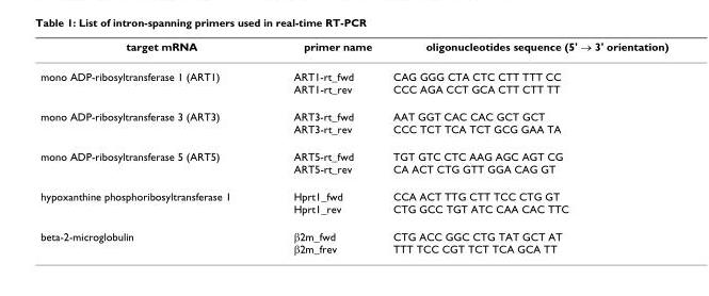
<table><thead><tr><td>target mRNA</td><td>primer name</td><td>oligonucleotides sequence (5&#x27; → 3&#x27; orientation)</td></tr></thead><tbody><tr><td>mono ADP-ribosyltransferase 1 (ART1)</td><td>ART1-rt_fwd ART1-rt_rev</td><td>CAG GGG CTA CTC CTT TTT CC CCC AGA CCT GCA CTT CTT TT</td></tr><tr><td>mono ADP-ribosyltransferase 3 (ART3)</td><td>ART3-rt_fwd ART3-rt_rev</td><td>AAT GGT CAC CAC GCT GCT CCC TCT TCA TCT GCG GAA TA</td></tr><tr><td>mono ADP-ribosyltransferase 5 (ART5)</td><td>ART5-rt_fwd ART5-rt_rev</td><td>TGT GTC CTC AAG AGC AGT CG CA ACT CTG GTT GGA CAG GT</td></tr><tr><td>hypoxanthine phosphoribosyltransferase 1</td><td>Hprt1_fwd Hprt1_rev</td><td>CCA ACT TTG CTT TCC CTG GT CTG GCC TGT ATC CAA CAC TTC</td></tr><tr><td>beta-2-microglobulin</td><td>β2m_fwd β2m_frev</td><td>CTG ACC GGC CTG TAT GCT AT TTT TCC CGT TCT TCA GCA TT</td></tr></tbody></table>